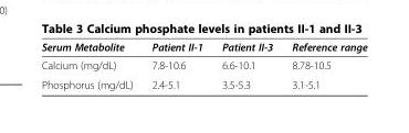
<table><thead><tr><td>Serum Metabolite</td><td>Patient II-1</td><td>Patient II-3</td><td>Reference range</td></tr></thead><tbody><tr><td>Calcium (mg/dL)</td><td>7.8-10.6</td><td>6.6-10.1</td><td>8.78-10.5</td></tr><tr><td>Phosphorus (mg/dL)</td><td>2.4-5.1</td><td>3.5-5.3</td><td>3.1-5.1</td></tr></tbody></table>